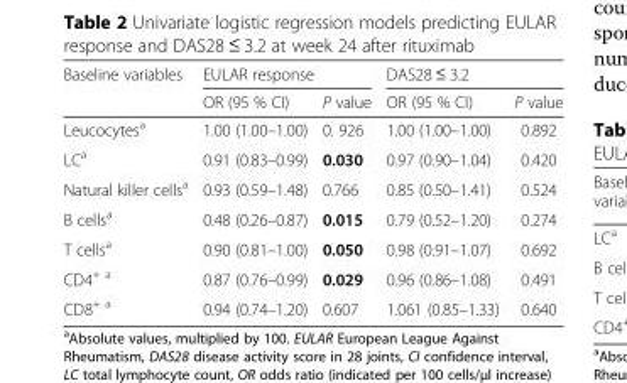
<table><thead><tr><td rowspan="2">Baseline variables</td><td colspan="2">EULAR response</td><td colspan="2">DAS28 ≤ 3.2</td></tr><tr><td>OR (95 % CI)</td><td>P value</td><td>OR (95 % CI)</td><td>P value</td></tr></thead><tbody><tr><td>Leucocytes<sup>a</sup></td><td>1.00 (1.00–1.00)</td><td>0. 926</td><td>1.00 (1.00–1.00)</td><td>0.892</td></tr><tr><td>LC<sup>a</sup></td><td>0.91 (0.83–0.99)</td><td>0.030</td><td>0.97 (0.90–1.04)</td><td>0.420</td></tr><tr><td>Natural killer cells<sup>a</sup></td><td>0.93 (0.59–1.48)</td><td>0.766</td><td>0.85 (0.50–1.41)</td><td>0.524</td></tr><tr><td>B cells<sup>a</sup></td><td>0.48 (0.26–0.87)</td><td>0.015</td><td>0.79 (0.52–1.20)</td><td>0.274</td></tr><tr><td>T cells<sup>a</sup></td><td>0.90 (0.81–1.00)</td><td>0.050</td><td>0.98 (0.91–1.07)</td><td>0.692</td></tr><tr><td>CD4<sup>+ a</sup></td><td>0.87 (0.76–0.99)</td><td>0.029</td><td>0.96 (0.86–1.08)</td><td>0.491</td></tr><tr><td>CD8<sup>+ a</sup></td><td>0.94 (0.74–1.20)</td><td>0.607</td><td>1.061 (0.85–1.33)</td><td>0.640</td></tr></tbody></table>